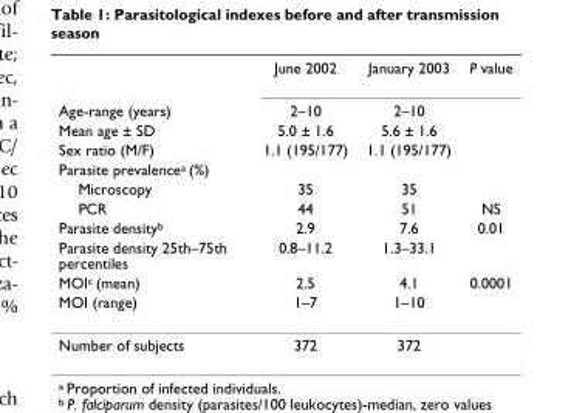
<table><thead><tr><td rowspan="11">Age-range (years) Mean age ± SD Sex ratio (M/F) Parasite prevalencea (%) Microscopy PCR Parasite densityb Parasite density 25th–75th percentiles MOIc (mean) MOI (range)</td><td rowspan="11">June 2002 2–10 5.0 ± 1.6 1.1 (195/177) 35 44 2.9 0.8–11.2 2.5 1–7</td><td rowspan="11">January 2003 2–10 5.6 ± 1.6 1.1 (195/177) 35 51 7.6 1.3–33.1 4.1 1–10</td><td rowspan="11">P value NS 0.01 0.0001</td></tr><tr></tr><tr></tr><tr></tr><tr></tr><tr></tr><tr></tr><tr></tr><tr></tr><tr></tr><tr></tr></thead><tbody><tr><td>Number of subjects</td><td>372</td><td>372</td><td></td></tr></tbody></table>